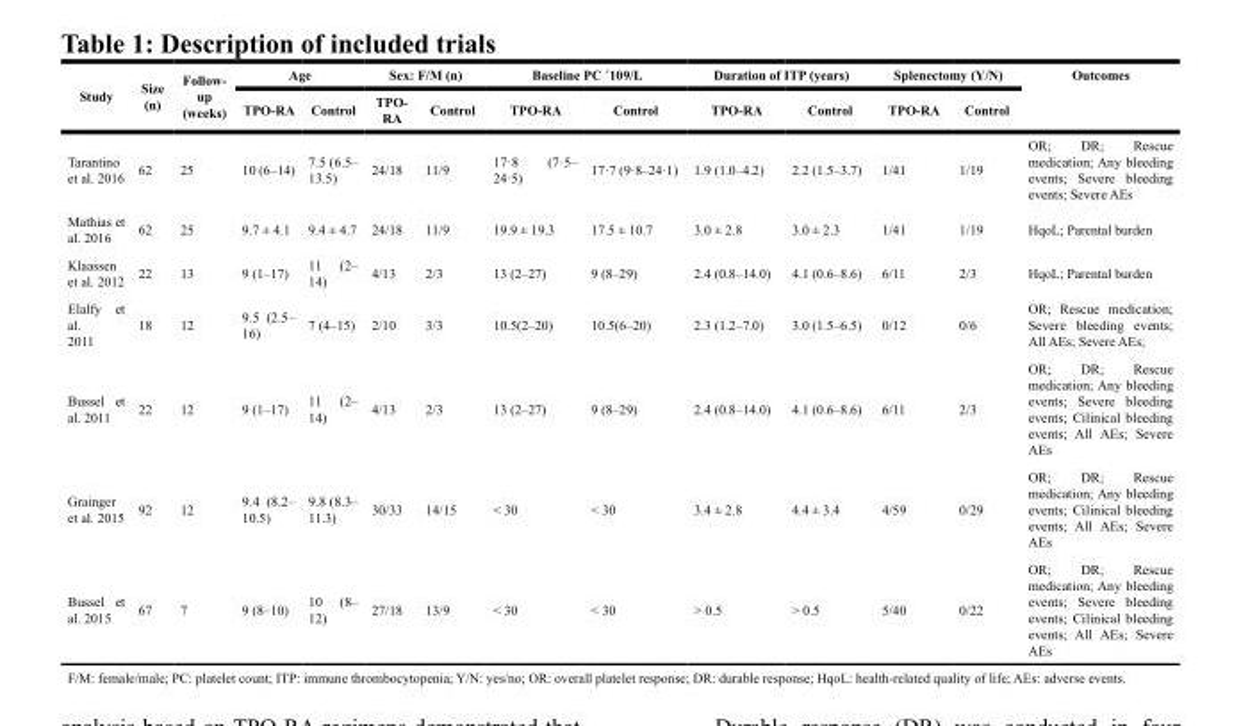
<table><thead><tr><td rowspan="2">Study</td><td rowspan="2">Size (n)</td><td rowspan="2">Follow- up (weeks)</td><td colspan="2">Age</td><td colspan="2">Sex: F/M (n)</td><td colspan="2">Baseline PC ´109/L</td><td colspan="2">Duration of ITP (years)</td><td colspan="2">Splenectomy (Y/N)</td><td rowspan="2">Outcomes</td></tr><tr><td>TPO-RA</td><td>Control</td><td>TPO- RA</td><td>Control</td><td>TPO-RA</td><td>Control</td><td>TPO-RA</td><td>Control</td><td>TPO-RA</td><td>Control</td></tr></thead><tbody><tr><td>Tarantino et al. 2016</td><td>62</td><td>25</td><td>10 (6–14)</td><td>7.5 (6.5– 13.5)</td><td>24/18</td><td>11/9</td><td>17·8 (7·5– 24·5)</td><td>17·7 (9·8–24·1)</td><td>1.9 (1.0–4.2)</td><td>2.2 (1.5–3.7)</td><td>1/41</td><td>1/19</td><td>OR; DR; Rescue medication; Any bleeding events; Severe bleeding events; Severe AEs</td></tr><tr><td>Mathias et al. 2016</td><td>62</td><td>25</td><td>9.7 ± 4.1</td><td>9.4 ± 4.7</td><td>24/18</td><td>11/9</td><td>19.9 ± 19.3</td><td>17.5 ± 10.7</td><td>3.0 ± 2.8</td><td>3.0 ± 2.3</td><td>1/41</td><td>1/19</td><td>HqoL; Parental burden</td></tr><tr><td>Klaassen et al. 2012</td><td>22</td><td>13</td><td>9 (1–17)</td><td>11 (2– 14)</td><td>4/13</td><td>2/3</td><td>13 (2–27)</td><td>9 (8–29)</td><td>2.4 (0.8–14.0)</td><td>4.1 (0.6–8.6)</td><td>6/11</td><td>2/3</td><td>HqoL; Parental burden</td></tr><tr><td>Elalfy et al. 2011</td><td>18</td><td>12</td><td>9.5 (2.5– 16)</td><td>7 (4–15)</td><td>2/10</td><td>3/3</td><td>10.5(2–20)</td><td>10.5(6–20)</td><td>2.3 (1.2–7.0)</td><td>3.0 (1.5–6.5)</td><td>0/12</td><td>0/6</td><td>OR; Rescue medication; Severe bleeding events; All AEs; Severe AEs;</td></tr><tr><td>Bussel et al. 2011</td><td>22</td><td>12</td><td>9 (1–17)</td><td>11 (2– 14)</td><td>4/13</td><td>2/3</td><td>13 (2–27)</td><td>9 (8–29)</td><td>2.4 (0.8–14.0)</td><td>4.1 (0.6–8.6)</td><td>6/11</td><td>2/3</td><td>OR; DR; Rescue medication; Any bleeding events; Severe bleeding events; Cilinical bleeding events; All AEs; Severe AEs</td></tr><tr><td>Grainger et al. 2015</td><td>92</td><td>12</td><td>9.4 (8.2– 10.5)</td><td>9.8 (8.3– 11.3)</td><td>30/33</td><td>14/15</td><td>&lt; 30</td><td>&lt; 30</td><td>3.4 ± 2.8</td><td>4.4 ± 3.4</td><td>4/59</td><td>0/29</td><td>OR; DR; Rescue medication; Any bleeding events; Cilinical bleeding events; All AEs; Severe AEs</td></tr><tr><td>Bussel et al. 2015</td><td>67</td><td>7</td><td>9 (8–10)</td><td>10 (8– 12)</td><td>27/18</td><td>13/9</td><td>&lt; 30</td><td>&lt; 30</td><td>&gt; 0.5</td><td>&gt; 0.5</td><td>5/40</td><td>0/22</td><td>OR; DR; Rescue medication; Any bleeding events; Severe bleeding events; Cilinical bleeding events; All AEs; Severe AEs</td></tr></tbody></table>